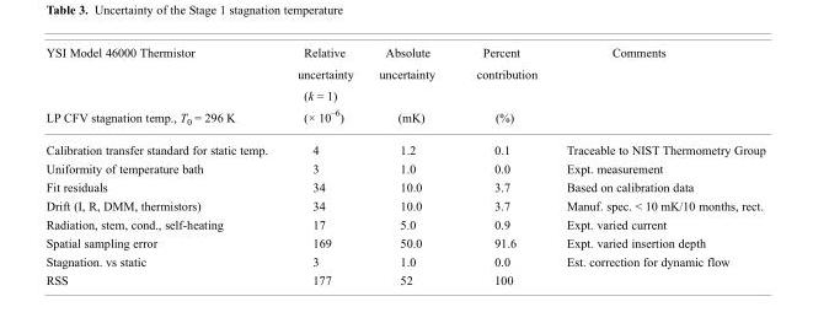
<table><thead><tr><td rowspan="2">YSI Model 46000 Thermistor LP CFV stagnation temp., T<sub>0</sub> = 296 K</td><td rowspan="2">Relative uncertainty (k = 1) (× 10<sup>–6</sup>)</td><td rowspan="2">Absolute uncertainty (mK)</td><td rowspan="2">Percent contribution (%)</td><td rowspan="2">Comments</td></tr><tr></tr></thead><tbody><tr><td>Calibration transfer standard for static temp.</td><td>4</td><td>1.2</td><td>0.1</td><td>Traceable to NIST Thermometry Group</td></tr><tr><td>Uniformity of temperature bath</td><td>3</td><td>1.0</td><td>0.0</td><td>Expt. measurement</td></tr><tr><td>Fit residuals</td><td>34</td><td>10.0</td><td>3.7</td><td>Based on calibration data</td></tr><tr><td>Drift (I, R, DMM, thermistors)</td><td>34</td><td>10.0</td><td>3.7</td><td>Manuf. spec. &lt; 10 mK/10 months, rect.</td></tr><tr><td>Radiation, stem, cond., self-heating</td><td>17</td><td>5.0</td><td>0.9</td><td>Expt. varied current</td></tr><tr><td>Spatial sampling error</td><td>169</td><td>50.0</td><td>91.6</td><td>Expt. varied insertion depth</td></tr><tr><td>Stagnation. vs static</td><td>3</td><td>1.0</td><td>0.0</td><td>Est. correction for dynamic flow</td></tr><tr><td>RSS</td><td>177</td><td>52</td><td>100</td><td></td></tr></tbody></table>